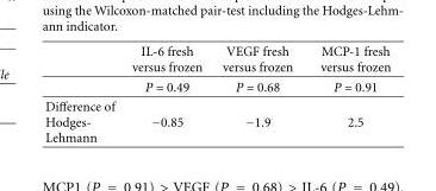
<table><thead><tr><td></td><td>IL-6 fresh versus frozen</td><td>VEGF fresh versus frozen</td><td>MCP-1 fresh versus frozen</td></tr></thead><tbody><tr><td></td><td>P = 0.49</td><td>P = 0.68</td><td>P = 0.91</td></tr><tr><td>Difference of Hodges- Lehmann</td><td>−0.85</td><td>−1.9</td><td>2.5</td></tr></tbody></table>